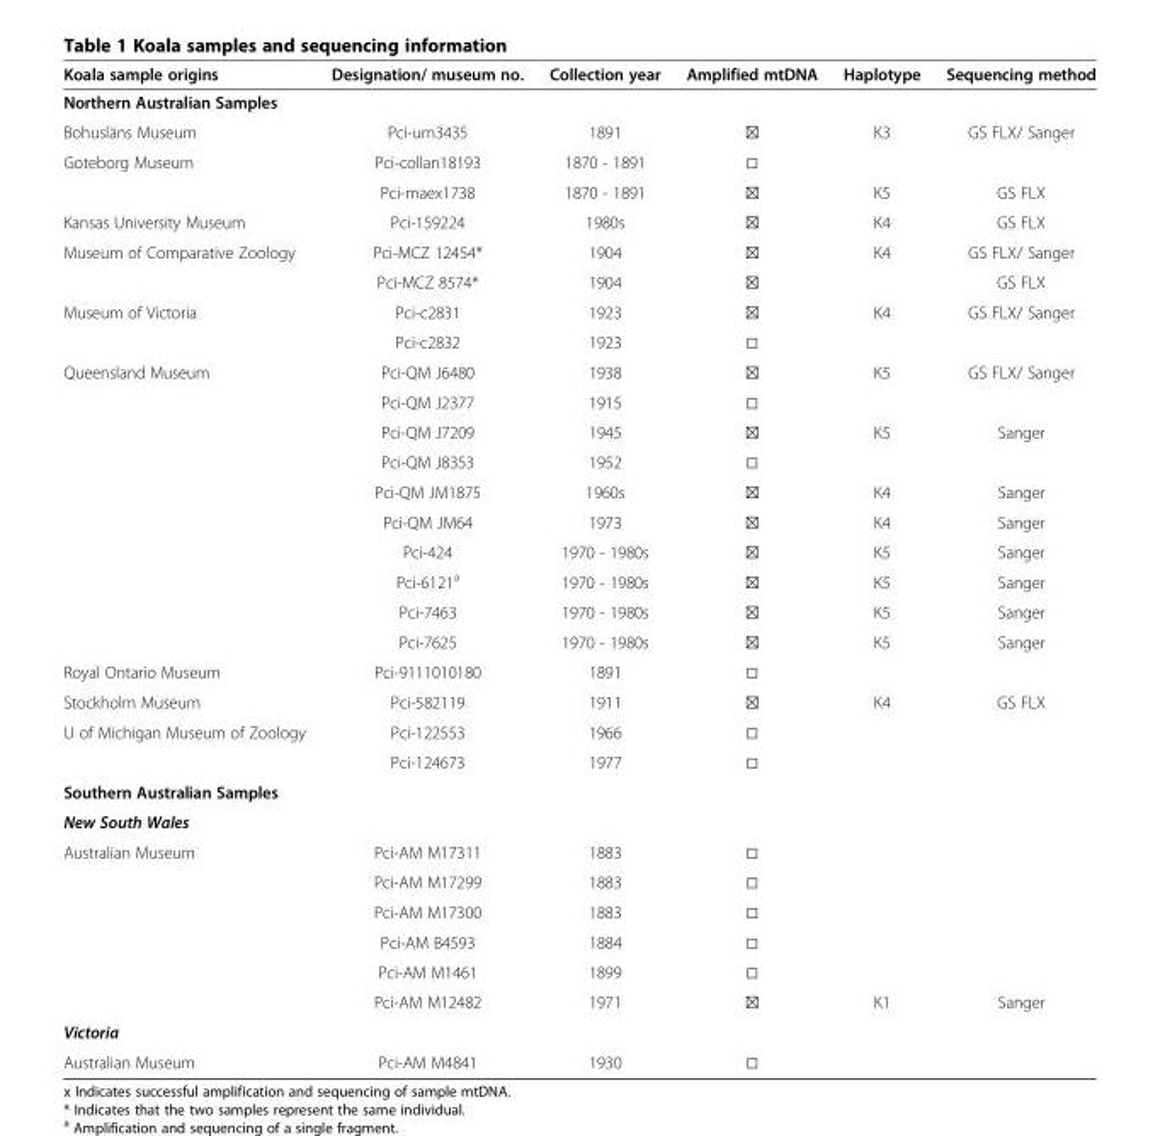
<table><thead><tr><td>Koala sample origins</td><td>Designation/ museum no.</td><td>Collection year</td><td>Amplified mtDNA</td><td>Haplotype</td><td>Sequencing method</td></tr></thead><tbody><tr><td colspan="6">Northern Australian Samples</td></tr><tr><td>Bohusläns Museum</td><td>Pci-um3435</td><td>1891</td><td>⊠</td><td>K3</td><td>GS FLX/ Sanger</td></tr><tr><td rowspan="2">Goteborg Museum</td><td>Pci-collan18193</td><td>1870 - 1891</td><td>□</td><td></td><td></td></tr><tr><td>Pci-maex1738</td><td>1870 - 1891</td><td>⊠</td><td>K5</td><td>GS FLX</td></tr><tr><td>Kansas University Museum</td><td>Pci-159224</td><td>1980s</td><td>⊠</td><td>K4</td><td>GS FLX</td></tr><tr><td rowspan="2">Museum of Comparative Zoology</td><td>Pci-MCZ 12454*</td><td>1904</td><td>⊠</td><td>K4</td><td>GS FLX/ Sanger</td></tr><tr><td>Pci-MCZ 8574*</td><td>1904</td><td>⊠</td><td></td><td>GS FLX</td></tr><tr><td rowspan="2">Museum of Victoria</td><td>Pci-c2831</td><td>1923</td><td>⊠</td><td>K4</td><td>GS FLX/ Sanger</td></tr><tr><td>Pci-c2832</td><td>1923</td><td>□</td><td></td><td></td></tr><tr><td rowspan="10">Queensland Museum</td><td>Pci-QM J6480</td><td>1938</td><td>⊠</td><td>K5</td><td>GS FLX/ Sanger</td></tr><tr><td>Pci-QM J2377</td><td>1915</td><td>□</td><td></td><td></td></tr><tr><td>Pci-QM J7209</td><td>1945</td><td>⊠</td><td>K5</td><td>Sanger</td></tr><tr><td>Pci-QM J8353</td><td>1952</td><td>□</td><td></td><td></td></tr><tr><td>Pci-QM JM1875</td><td>1960s</td><td>⊠</td><td>K4</td><td>Sanger</td></tr><tr><td>Pci-QM JM64</td><td>1973</td><td>⊠</td><td>K4</td><td>Sanger</td></tr><tr><td>Pci-424</td><td>1970 - 1980s</td><td>⊠</td><td>K5</td><td>Sanger</td></tr><tr><td>Pci-6121<sup>a</sup></td><td>1970 - 1980s</td><td>⊠</td><td>K5</td><td>Sanger</td></tr><tr><td>Pci-7463</td><td>1970 - 1980s</td><td>⊠</td><td>K5</td><td>Sanger</td></tr><tr><td>Pci-7625</td><td>1970 - 1980s</td><td>⊠</td><td>K5</td><td>Sanger</td></tr><tr><td>Royal Ontario Museum</td><td>Pci-9111010180</td><td>1891</td><td>□</td><td></td><td></td></tr><tr><td>Stockholm Museum</td><td>Pci-582119</td><td>1911</td><td>⊠</td><td>K4</td><td>GS FLX</td></tr><tr><td rowspan="2">U of Michigan Museum of Zoology</td><td>Pci-122553</td><td>1966</td><td>□</td><td></td><td></td></tr><tr><td>Pci-124673</td><td>1977</td><td>□</td><td></td><td></td></tr><tr><td colspan="6">Southern Australian Samples</td></tr><tr><td colspan="6">New South Wales</td></tr><tr><td rowspan="6">Australian Museum</td><td>Pci-AM M17311</td><td>1883</td><td>□</td><td></td><td></td></tr><tr><td>Pci-AM M17299</td><td>1883</td><td>□</td><td></td><td></td></tr><tr><td>Pci-AM M17300</td><td>1883</td><td>□</td><td></td><td></td></tr><tr><td>Pci-AM B4593</td><td>1884</td><td>□</td><td></td><td></td></tr><tr><td>Pci-AM M1461</td><td>1899</td><td>□</td><td></td><td></td></tr><tr><td>Pci-AM M12482</td><td>1971</td><td>⊠</td><td>K1</td><td>Sanger</td></tr><tr><td colspan="6">Victoria</td></tr><tr><td>Australian Museum</td><td>Pci-AM M4841</td><td>1930</td><td>□</td><td></td><td></td></tr></tbody></table>